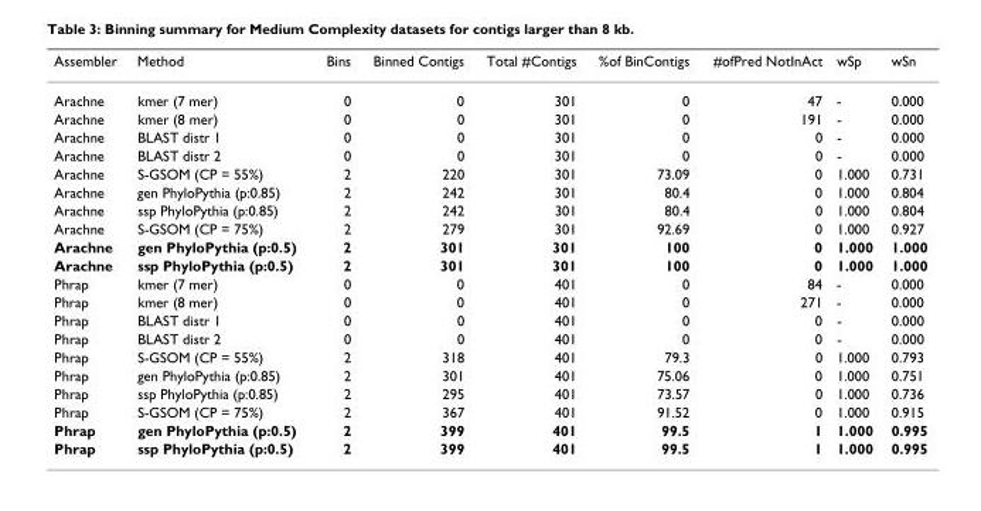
<table><thead><tr><td>Assembler</td><td>Method</td><td>Bins</td><td>Binned Contigs</td><td>Total #Contigs</td><td>%of BinContigs</td><td>#ofPred NotInAct</td><td>wSp</td><td>wSn</td></tr></thead><tbody><tr><td>Arachne</td><td>kmer (7 mer)</td><td>0</td><td>0</td><td>301</td><td>0</td><td>47</td><td>-</td><td>0.000</td></tr><tr><td>Arachne</td><td>kmer (8 mer)</td><td>0</td><td>0</td><td>301</td><td>0</td><td>191</td><td>-</td><td>0.000</td></tr><tr><td>Arachne</td><td>BLAST distr 1</td><td>0</td><td>0</td><td>301</td><td>0</td><td>0</td><td>-</td><td>0.000</td></tr><tr><td>Arachne</td><td>BLAST distr 2</td><td>0</td><td>0</td><td>301</td><td>0</td><td>0</td><td>-</td><td>0.000</td></tr><tr><td>Arachne</td><td>S-GSOM (CP = 55%)</td><td>2</td><td>220</td><td>301</td><td>73.09</td><td>0</td><td>1.000</td><td>0.731</td></tr><tr><td>Arachne</td><td>gen PhyloPythia (p:0.85)</td><td>2</td><td>242</td><td>301</td><td>80.4</td><td>0</td><td>1.000</td><td>0.804</td></tr><tr><td>Arachne</td><td>ssp PhyloPythia (p:0.85)</td><td>2</td><td>242</td><td>301</td><td>80.4</td><td>0</td><td>1.000</td><td>0.804</td></tr><tr><td>Arachne</td><td>S-GSOM (CP = 75%)</td><td>2</td><td>279</td><td>301</td><td>92.69</td><td>0</td><td>1.000</td><td>0.927</td></tr><tr><td>Arachne</td><td>gen PhyloPythia (p:0.5)</td><td>2</td><td>301</td><td>301</td><td>100</td><td>0</td><td>1.000</td><td>1.000</td></tr><tr><td>Arachne</td><td>ssp PhyloPythia (p:0.5)</td><td>2</td><td>301</td><td>301</td><td>100</td><td>0</td><td>1.000</td><td>1.000</td></tr><tr><td>Phrap</td><td>kmer (7 mer)</td><td>0</td><td>0</td><td>401</td><td>0</td><td>84</td><td>-</td><td>0.000</td></tr><tr><td>Phrap</td><td>kmer (8 mer)</td><td>0</td><td>0</td><td>401</td><td>0</td><td>271</td><td>-</td><td>0.000</td></tr><tr><td>Phrap</td><td>BLAST distr 1</td><td>0</td><td>0</td><td>401</td><td>0</td><td>0</td><td>-</td><td>0.000</td></tr><tr><td>Phrap</td><td>BLAST distr 2</td><td>0</td><td>0</td><td>401</td><td>0</td><td>0</td><td>-</td><td>0.000</td></tr><tr><td>Phrap</td><td>S-GSOM (CP = 55%)</td><td>2</td><td>318</td><td>401</td><td>79.3</td><td>0</td><td>1.000</td><td>0.793</td></tr><tr><td>Phrap</td><td>gen PhyloPythia (p:0.85)</td><td>2</td><td>301</td><td>401</td><td>75.06</td><td>0</td><td>1.000</td><td>0.751</td></tr><tr><td>Phrap</td><td>ssp PhyloPythia (p:0.85)</td><td>2</td><td>295</td><td>401</td><td>73.57</td><td>0</td><td>1.000</td><td>0.736</td></tr><tr><td>Phrap</td><td>S-GSOM (CP = 75%)</td><td>2</td><td>367</td><td>401</td><td>91.52</td><td>0</td><td>1.000</td><td>0.915</td></tr><tr><td>Phrap</td><td>gen PhyloPythia (p:0.5)</td><td>2</td><td>399</td><td>401</td><td>99.5</td><td>1</td><td>1.000</td><td>0.995</td></tr><tr><td>Phrap</td><td>ssp PhyloPythia (p:0.5)</td><td>2</td><td>399</td><td>401</td><td>99.5</td><td>1</td><td>1.000</td><td>0.995</td></tr></tbody></table>